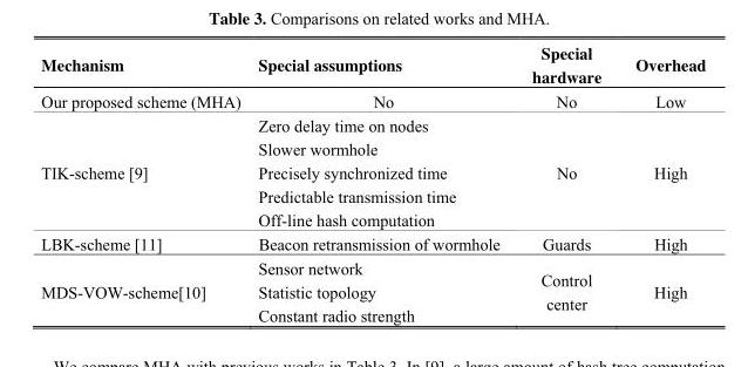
<table><thead><tr><td>Mechanism</td><td>Special assumptions</td><td>Special hardware</td><td>Overhead</td></tr></thead><tbody><tr><td>Our proposed scheme (MHA)</td><td>No</td><td>No</td><td>Low</td></tr><tr><td rowspan="5">TIK-scheme [9]</td><td>Zero delay time on nodes</td><td rowspan="5">No</td><td rowspan="5">High</td></tr><tr><td>Slower wormhole</td></tr><tr><td>Precisely synchronized time</td></tr><tr><td>Predictable transmission time</td></tr><tr><td>Off-line hash computation</td></tr><tr><td>LBK-scheme [11]</td><td>Beacon retransmission of wormhole</td><td>Guards</td><td>High</td></tr><tr><td rowspan="3">MDS-VOW-scheme[10]</td><td>Sensor network</td><td rowspan="3">Control center</td><td rowspan="3">High</td></tr><tr><td>Statistic topology</td></tr><tr><td>Constant radio strength</td></tr></tbody></table>